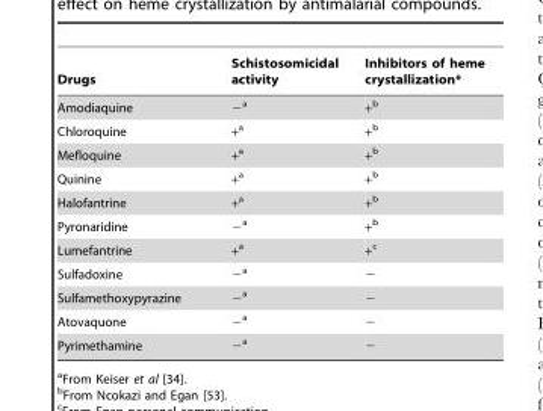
<table><thead><tr><td>Drugs</td><td>Schistosomicidal activity</td><td>Inhibitors of heme crystallization*</td></tr></thead><tbody><tr><td>Amodiaquine</td><td>−a</td><td>+<sup>b</sup></td></tr><tr><td>Chloroquine</td><td>+<sup>a</sup></td><td>+<sup>b</sup></td></tr><tr><td>Mefloquine</td><td>+<sup>a</sup></td><td>+<sup>b</sup></td></tr><tr><td>Quinine</td><td>+<sup>a</sup></td><td>+<sup>b</sup></td></tr><tr><td>Halofantrine</td><td>+<sup>a</sup></td><td>+<sup>b</sup></td></tr><tr><td>Pyronaridine</td><td>−a</td><td>+<sup>b</sup></td></tr><tr><td>Lumefantrine</td><td>+<sup>a</sup></td><td>+<sup>c</sup></td></tr><tr><td>Sulfadoxine</td><td>−a</td><td>−</td></tr><tr><td>Sulfamethoxypyrazine</td><td>−a</td><td>−</td></tr><tr><td>Atovaquone</td><td>−a</td><td>−</td></tr><tr><td>Pyrimethamine</td><td>−a</td><td>−</td></tr></tbody></table>